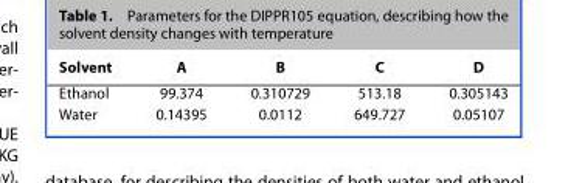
<table><thead><tr><td>Solvent</td><td>A</td><td>B</td><td>C</td><td>D</td></tr></thead><tbody><tr><td>Ethanol</td><td>99.374</td><td>0.310729</td><td>513.18</td><td>0.305143</td></tr><tr><td>Water</td><td>0.14395</td><td>0.0112</td><td>649.727</td><td>0.05107</td></tr></tbody></table>